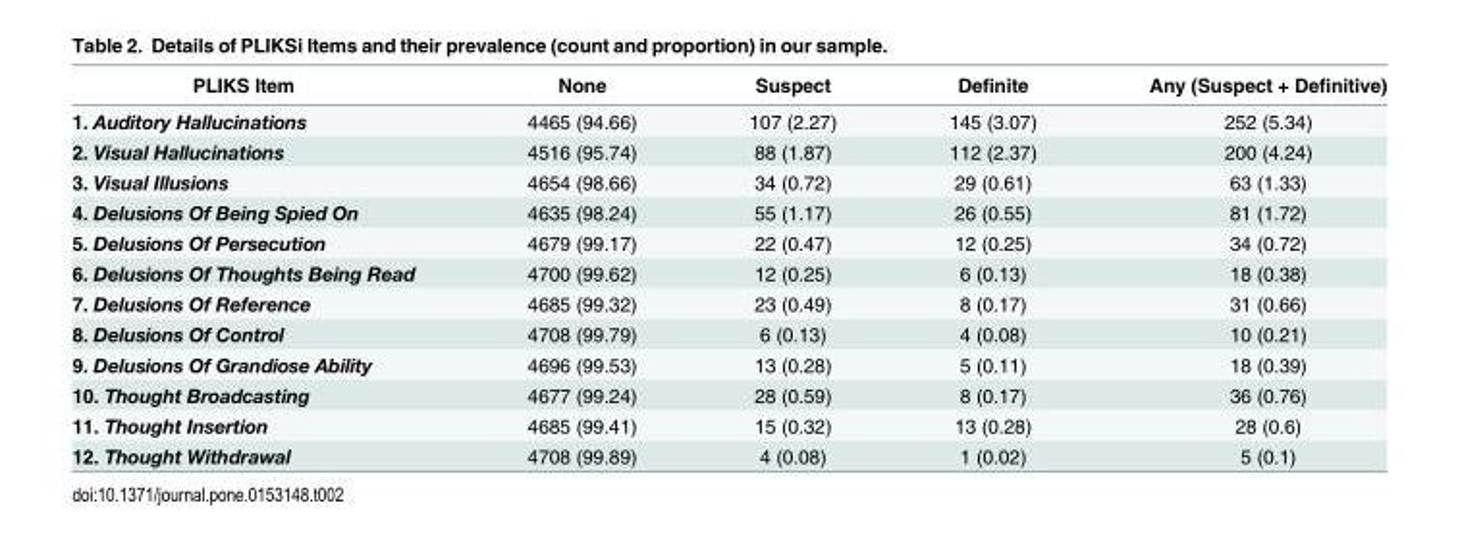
<table><thead><tr><td>PLIKS Item</td><td>None</td><td>Suspect</td><td>Definite</td><td>Any (Suspect + Definitive)</td></tr></thead><tbody><tr><td>1. Auditory Hallucinations</td><td>4465 (94.66)</td><td>107 (2.27)</td><td>145 (3.07)</td><td>252 (5.34)</td></tr><tr><td>2. Visual Hallucinations</td><td>4516 (95.74)</td><td>88 (1.87)</td><td>112 (2.37)</td><td>200 (4.24)</td></tr><tr><td>3. Visual Illusions</td><td>4654 (98.66)</td><td>34 (0.72)</td><td>29 (0.61)</td><td>63 (1.33)</td></tr><tr><td>4. Delusions Of Being Spied On</td><td>4635 (98.24)</td><td>55 (1.17)</td><td>26 (0.55)</td><td>81 (1.72)</td></tr><tr><td>5. Delusions Of Persecution</td><td>4679 (99.17)</td><td>22 (0.47)</td><td>12 (0.25)</td><td>34 (0.72)</td></tr><tr><td>6. Delusions Of Thoughts Being Read</td><td>4700 (99.62)</td><td>12 (0.25)</td><td>6 (0.13)</td><td>18 (0.38)</td></tr><tr><td>7. Delusions Of Reference</td><td>4685 (99.32)</td><td>23 (0.49)</td><td>8 (0.17)</td><td>31 (0.66)</td></tr><tr><td>8. Delusions Of Control</td><td>4708 (99.79)</td><td>6 (0.13)</td><td>4 (0.08)</td><td>10 (0.21)</td></tr><tr><td>9. Delusions Of Grandiose Ability</td><td>4696 (99.53)</td><td>13 (0.28)</td><td>5 (0.11)</td><td>18 (0.39)</td></tr><tr><td>10. Thought Broadcasting</td><td>4677 (99.24)</td><td>28 (0.59)</td><td>8 (0.17)</td><td>36 (0.76)</td></tr><tr><td>11. Thought Insertion</td><td>4685 (99.41)</td><td>15 (0.32)</td><td>13 (0.28)</td><td>28 (0.6)</td></tr><tr><td>12. Thought Withdrawal</td><td>4708 (99.89)</td><td>4 (0.08)</td><td>1 (0.02)</td><td>5 (0.1)</td></tr></tbody></table>